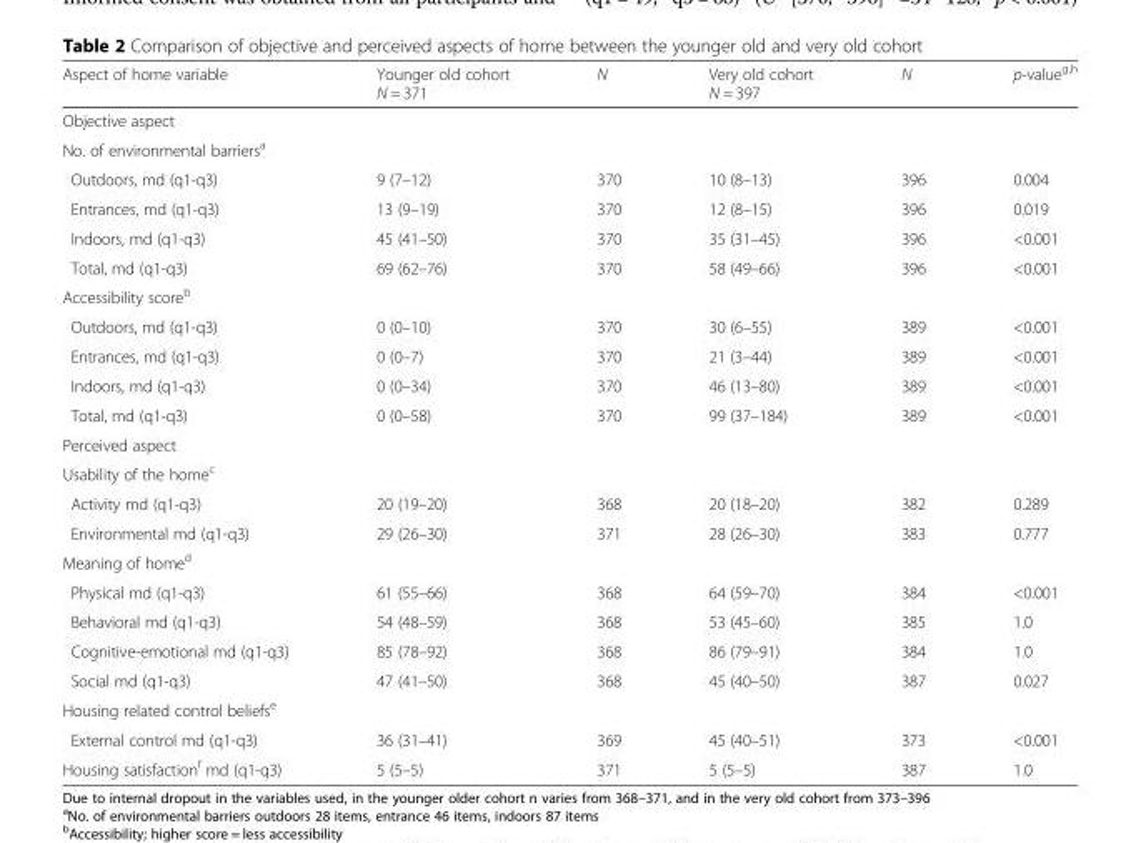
<table><thead><tr><td>Aspect of home variable</td><td>Younger old cohort N = 371</td><td>N</td><td>Very old cohort N = 397</td><td>N</td><td>p-value<sup>g,h</sup></td></tr></thead><tbody><tr><td colspan="6">Objective aspect</td></tr><tr><td colspan="6">No. of environmental barriers<sup>a</sup></td></tr><tr><td>Outdoors, md (q1-q3)</td><td>9 (7–12)</td><td>370</td><td>10 (8–13)</td><td>396</td><td>0.004</td></tr><tr><td>Entrances, md (q1-q3)</td><td>13 (9–19)</td><td>370</td><td>12 (8–15)</td><td>396</td><td>0.019</td></tr><tr><td>Indoors, md (q1-q3)</td><td>45 (41–50)</td><td>370</td><td>35 (31–45)</td><td>396</td><td>&lt;0.001</td></tr><tr><td>Total, md (q1-q3)</td><td>69 (62–76)</td><td>370</td><td>58 (49–66)</td><td>396</td><td>&lt;0.001</td></tr><tr><td colspan="6">Accessibility score<sup>b</sup></td></tr><tr><td>Outdoors, md (q1-q3)</td><td>0 (0–10)</td><td>370</td><td>30 (6–55)</td><td>389</td><td>&lt;0.001</td></tr><tr><td>Entrances, md (q1-q3)</td><td>0 (0–7)</td><td>370</td><td>21 (3–44)</td><td>389</td><td>&lt;0.001</td></tr><tr><td>Indoors, md (q1-q3)</td><td>0 (0–34)</td><td>370</td><td>46 (13–80)</td><td>389</td><td>&lt;0.001</td></tr><tr><td>Total, md (q1-q3)</td><td>0 (0–58)</td><td>370</td><td>99 (37–184)</td><td>389</td><td>&lt;0.001</td></tr><tr><td colspan="6">Perceived aspect</td></tr><tr><td colspan="6">Usability of the home<sup>c</sup></td></tr><tr><td>Activity md (q1-q3)</td><td>20 (19–20)</td><td>368</td><td>20 (18–20)</td><td>382</td><td>0.289</td></tr><tr><td>Environmental md (q1-q3)</td><td>29 (26–30)</td><td>371</td><td>28 (26–30)</td><td>383</td><td>0.777</td></tr><tr><td colspan="6">Meaning of home<sup>d</sup></td></tr><tr><td>Physical md (q1-q3)</td><td>61 (55–66)</td><td>368</td><td>64 (59–70)</td><td>384</td><td>&lt;0.001</td></tr><tr><td>Behavioral md (q1-q3)</td><td>54 (48–59)</td><td>368</td><td>53 (45–60)</td><td>385</td><td>1.0</td></tr><tr><td>Cognitive-emotional md (q1-q3)</td><td>85 (78–92)</td><td>368</td><td>86 (79–91)</td><td>384</td><td>1.0</td></tr><tr><td>Social md (q1-q3)</td><td>47 (41–50)</td><td>368</td><td>45 (40–50)</td><td>387</td><td>0.027</td></tr><tr><td colspan="6">Housing related control beliefs<sup>e</sup></td></tr><tr><td>External control md (q1-q3)</td><td>36 (31–41)</td><td>369</td><td>45 (40–51)</td><td>373</td><td>&lt;0.001</td></tr><tr><td>Housing satisfaction<sup>f</sup> md (q1-q3)</td><td>5 (5–5)</td><td>371</td><td>5 (5–5)</td><td>387</td><td>1.0</td></tr></tbody></table>